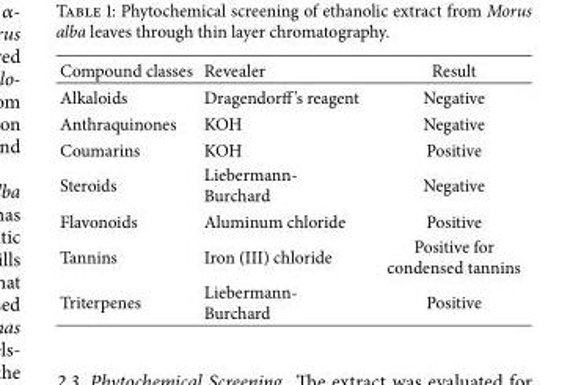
<table><thead><tr><td>Compound classes</td><td>Revealer</td><td>Result</td></tr></thead><tbody><tr><td>Alkaloids</td><td>Dragendorff’s reagent</td><td>Negative</td></tr><tr><td>Anthraquinones</td><td>KOH</td><td>Negative</td></tr><tr><td>Coumarins</td><td>KOH</td><td>Positive</td></tr><tr><td>Steroids</td><td>Liebermann- Burchard</td><td>Negative</td></tr><tr><td>Flavonoids</td><td>Aluminum chloride</td><td>Positive</td></tr><tr><td>Tannins</td><td>Iron (III) chloride</td><td>Positive for condensed tannins</td></tr><tr><td>Triterpenes</td><td>Liebermann- Burchard</td><td>Positive</td></tr></tbody></table>